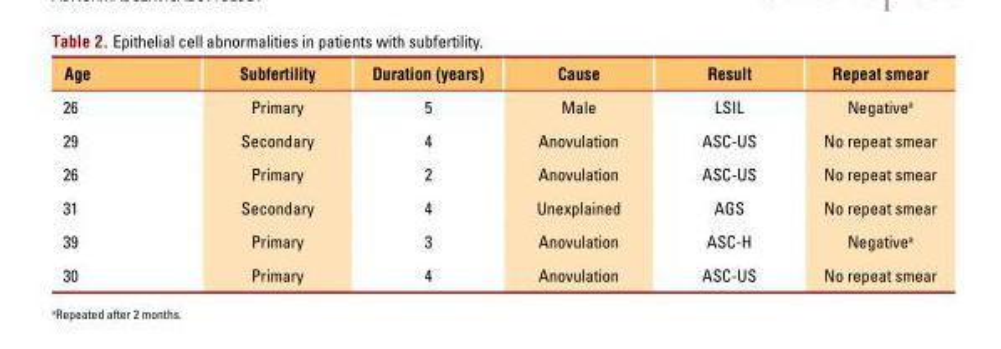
<table><thead><tr><td>Age</td><td>Subfertility</td><td>Duration (years)</td><td>Cause</td><td>Result</td><td>Repeat smear</td></tr></thead><tbody><tr><td>26</td><td>Primary</td><td>5</td><td>Male</td><td>LSIL</td><td>Negativea</td></tr><tr><td>29</td><td>Secondary</td><td>4</td><td>Anovulation</td><td>ASC-US</td><td>No repeat smear</td></tr><tr><td>26</td><td>Primary</td><td>2</td><td>Anovulation</td><td>ASC-US</td><td>No repeat smear</td></tr><tr><td>31</td><td>Secondary</td><td>4</td><td>Unexplained</td><td>AGS</td><td>No repeat smear</td></tr><tr><td>39</td><td>Primary</td><td>3</td><td>Anovulation</td><td>ASC-H</td><td>Negativea</td></tr><tr><td>30</td><td>Primary</td><td>4</td><td>Anovulation</td><td>ASC-US</td><td>No repeat smear</td></tr></tbody></table>